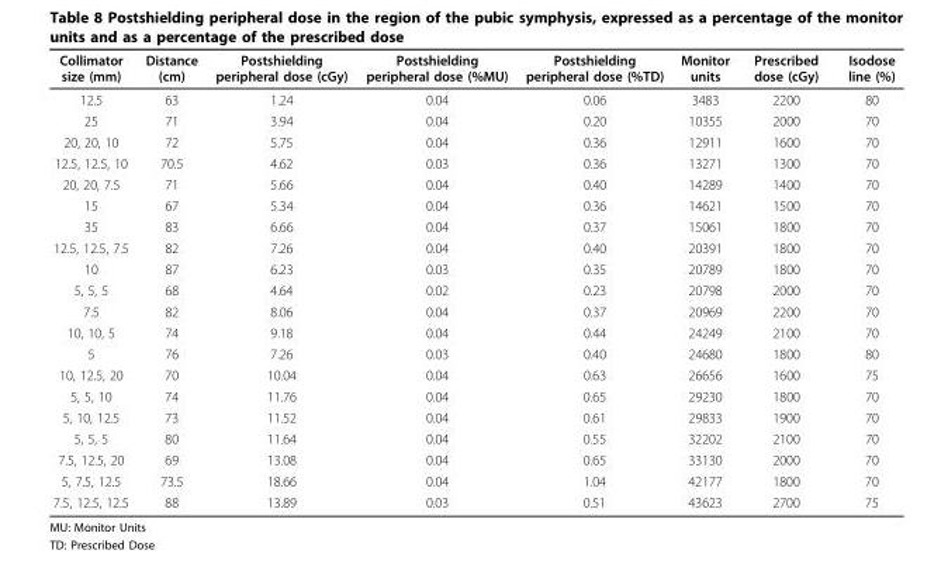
<table><thead><tr><td>Collimator size (mm)</td><td>Distance (cm)</td><td>Postshielding peripheral dose (cGy)</td><td>Postshielding peripheral dose (%MU)</td><td>Postshielding peripheral dose (%TD)</td><td>Monitor units</td><td>Prescribed dose (cGy)</td><td>Isodose line (%)</td></tr></thead><tbody><tr><td>12.5</td><td>63</td><td>1.24</td><td>0.04</td><td>0.06</td><td>3483</td><td>2200</td><td>80</td></tr><tr><td>25</td><td>71</td><td>3.94</td><td>0.04</td><td>0.20</td><td>10355</td><td>2000</td><td>70</td></tr><tr><td>20, 20, 10</td><td>72</td><td>5.75</td><td>0.04</td><td>0.36</td><td>12911</td><td>1600</td><td>70</td></tr><tr><td>12.5, 12.5, 10</td><td>70.5</td><td>4.62</td><td>0.03</td><td>0.36</td><td>13271</td><td>1300</td><td>70</td></tr><tr><td>20, 20, 7.5</td><td>71</td><td>5.66</td><td>0.04</td><td>0.40</td><td>14289</td><td>1400</td><td>70</td></tr><tr><td>15</td><td>67</td><td>5.34</td><td>0.04</td><td>0.36</td><td>14621</td><td>1500</td><td>70</td></tr><tr><td>35</td><td>83</td><td>6.66</td><td>0.04</td><td>0.37</td><td>15061</td><td>1800</td><td>70</td></tr><tr><td>12.5, 12.5, 7.5</td><td>82</td><td>7.26</td><td>0.04</td><td>0.40</td><td>20391</td><td>1800</td><td>70</td></tr><tr><td>10</td><td>87</td><td>6.23</td><td>0.03</td><td>0.35</td><td>20789</td><td>1800</td><td>70</td></tr><tr><td>5, 5, 5</td><td>68</td><td>4.64</td><td>0.02</td><td>0.23</td><td>20798</td><td>2000</td><td>70</td></tr><tr><td>7.5</td><td>82</td><td>8.06</td><td>0.04</td><td>0.37</td><td>20969</td><td>2200</td><td>70</td></tr><tr><td>10, 10, 5</td><td>74</td><td>9.18</td><td>0.04</td><td>0.44</td><td>24249</td><td>2100</td><td>70</td></tr><tr><td>5</td><td>76</td><td>7.26</td><td>0.03</td><td>0.40</td><td>24680</td><td>1800</td><td>80</td></tr><tr><td>10, 12.5, 20</td><td>70</td><td>10.04</td><td>0.04</td><td>0.63</td><td>26656</td><td>1600</td><td>75</td></tr><tr><td>5, 5, 10</td><td>74</td><td>11.76</td><td>0.04</td><td>0.65</td><td>29230</td><td>1800</td><td>70</td></tr><tr><td>5, 10, 12.5</td><td>73</td><td>11.52</td><td>0.04</td><td>0.61</td><td>29833</td><td>1900</td><td>70</td></tr><tr><td>5, 5, 5</td><td>80</td><td>11.64</td><td>0.04</td><td>0.55</td><td>32202</td><td>2100</td><td>70</td></tr><tr><td>7.5, 12.5, 20</td><td>69</td><td>13.08</td><td>0.04</td><td>0.65</td><td>33130</td><td>2000</td><td>70</td></tr><tr><td>5, 7.5, 12.5</td><td>73.5</td><td>18.66</td><td>0.04</td><td>1.04</td><td>42177</td><td>1800</td><td>70</td></tr><tr><td>7.5, 12.5, 12.5</td><td>88</td><td>13.89</td><td>0.03</td><td>0.51</td><td>43623</td><td>2700</td><td>75</td></tr></tbody></table>